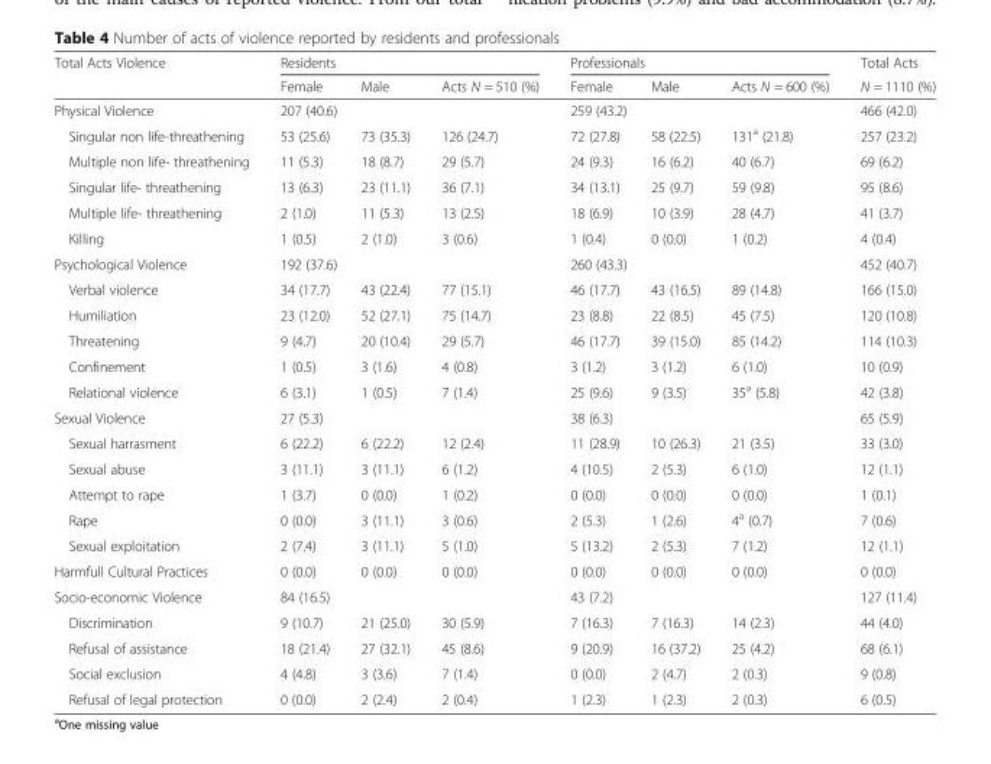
<table><thead><tr><td rowspan="2">Total Acts Violence</td><td colspan="3">Residents</td><td colspan="3">Professionals</td><td rowspan="2">Total Acts N = 1110 (%)</td></tr><tr><td>Female</td><td>Male</td><td>Acts N = 510 (%)</td><td>Female</td><td>Male</td><td>Acts N = 600 (%)</td></tr></thead><tbody><tr><td>Physical Violence</td><td colspan="3">207 (40.6)</td><td colspan="3">259 (43.2)</td><td>466 (42.0)</td></tr><tr><td>Singular non life-threathening</td><td>53 (25.6)</td><td>73 (35.3)</td><td>126 (24.7)</td><td>72 (27.8)</td><td>58 (22.5)</td><td>131<sup>a</sup> (21.8)</td><td>257 (23.2)</td></tr><tr><td>Multiple non life- threathening</td><td>11 (5.3)</td><td>18 (8.7)</td><td>29 (5.7)</td><td>24 (9.3)</td><td>16 (6.2)</td><td>40 (6.7)</td><td>69 (6.2)</td></tr><tr><td>Singular life- threathening</td><td>13 (6.3)</td><td>23 (11.1)</td><td>36 (7.1)</td><td>34 (13.1)</td><td>25 (9.7)</td><td>59 (9.8)</td><td>95 (8.6)</td></tr><tr><td>Multiple life- threathening</td><td>2 (1.0)</td><td>11 (5.3)</td><td>13 (2.5)</td><td>18 (6.9)</td><td>10 (3.9)</td><td>28 (4.7)</td><td>41 (3.7)</td></tr><tr><td>Killing</td><td>1 (0.5)</td><td>2 (1.0)</td><td>3 (0.6)</td><td>1 (0.4)</td><td>0 (0.0)</td><td>1 (0.2)</td><td>4 (0.4)</td></tr><tr><td>Psychological Violence</td><td colspan="3">192 (37.6)</td><td colspan="3">260 (43.3)</td><td>452 (40.7)</td></tr><tr><td>Verbal violence</td><td>34 (17.7)</td><td>43 (22.4)</td><td>77 (15.1)</td><td>46 (17.7)</td><td>43 (16.5)</td><td>89 (14.8)</td><td>166 (15.0)</td></tr><tr><td>Humiliation</td><td>23 (12.0)</td><td>52 (27.1)</td><td>75 (14.7)</td><td>23 (8.8)</td><td>22 (8.5)</td><td>45 (7.5)</td><td>120 (10.8)</td></tr><tr><td>Threatening</td><td>9 (4.7)</td><td>20 (10.4)</td><td>29 (5.7)</td><td>46 (17.7)</td><td>39 (15.0)</td><td>85 (14.2)</td><td>114 (10.3)</td></tr><tr><td>Confinement</td><td>1 (0.5)</td><td>3 (1.6)</td><td>4 (0.8)</td><td>3 (1.2)</td><td>3 (1.2)</td><td>6 (1.0)</td><td>10 (0.9)</td></tr><tr><td>Relational violence</td><td>6 (3.1)</td><td>1 (0.5)</td><td>7 (1.4)</td><td>25 (9.6)</td><td>9 (3.5)</td><td>35<sup>a</sup> (5.8)</td><td>42 (3.8)</td></tr><tr><td>Sexual Violence</td><td colspan="3">27 (5.3)</td><td colspan="3">38 (6.3)</td><td>65 (5.9)</td></tr><tr><td>Sexual harrasment</td><td>6 (22.2)</td><td>6 (22.2)</td><td>12 (2.4)</td><td>11 (28.9)</td><td>10 (26.3)</td><td>21 (3.5)</td><td>33 (3.0)</td></tr><tr><td>Sexual abuse</td><td>3 (11.1)</td><td>3 (11.1)</td><td>6 (1.2)</td><td>4 (10.5)</td><td>2 (5.3)</td><td>6 (1.0)</td><td>12 (1.1)</td></tr><tr><td>Attempt to rape</td><td>1 (3.7)</td><td>0 (0.0)</td><td>1 (0.2)</td><td>0 (0.0)</td><td>0 (0.0)</td><td>0 (0.0)</td><td>1 (0.1)</td></tr><tr><td>Rape</td><td>0 (0.0)</td><td>3 (11.1)</td><td>3 (0.6)</td><td>2 (5.3)</td><td>1 (2.6)</td><td>4<sup>a</sup> (0.7)</td><td>7 (0.6)</td></tr><tr><td>Sexual exploitation</td><td>2 (7.4)</td><td>3 (11.1)</td><td>5 (1.0)</td><td>5 (13.2)</td><td>2 (5.3)</td><td>7 (1.2)</td><td>12 (1.1)</td></tr><tr><td>Harmfull Cultural Practices</td><td>0 (0.0)</td><td>0 (0.0)</td><td>0 (0.0)</td><td>0 (0.0)</td><td>0 (0.0)</td><td>0 (0.0)</td><td>0 (0.0)</td></tr><tr><td>Socio-economic Violence</td><td colspan="3">84 (16.5)</td><td colspan="3">43 (7.2)</td><td>127 (11.4)</td></tr><tr><td>Discrimination</td><td>9 (10.7)</td><td>21 (25.0)</td><td>30 (5.9)</td><td>7 (16.3)</td><td>7 (16.3)</td><td>14 (2.3)</td><td>44 (4.0)</td></tr><tr><td>Refusal of assistance</td><td>18 (21.4)</td><td>27 (32.1)</td><td>45 (8.6)</td><td>9 (20.9)</td><td>16 (37.2)</td><td>25 (4.2)</td><td>68 (6.1)</td></tr><tr><td>Social exclusion</td><td>4 (4.8)</td><td>3 (3.6)</td><td>7 (1.4)</td><td>0 (0.0)</td><td>2 (4.7)</td><td>2 (0.3)</td><td>9 (0.8)</td></tr><tr><td>Refusal of legal protection</td><td>0 (0.0)</td><td>2 (2.4)</td><td>2 (0.4)</td><td>1 (2.3)</td><td>1 (2.3)</td><td>2 (0.3)</td><td>6 (0.5)</td></tr></tbody></table>